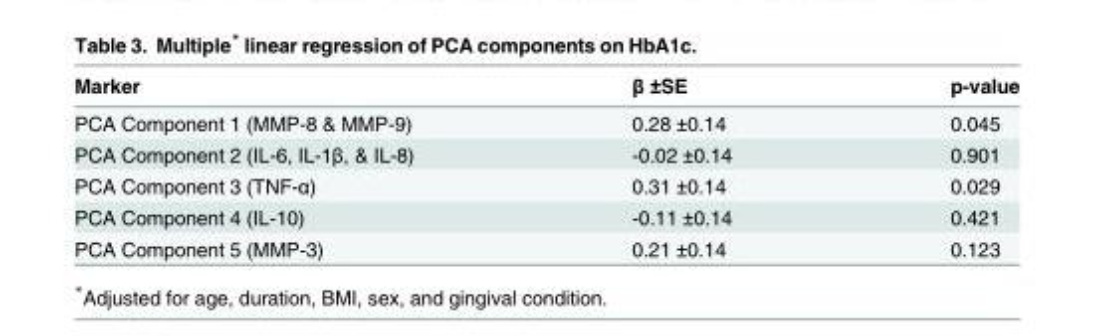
<table><thead><tr><td>Marker</td><td>β ±SE</td><td>p-value</td></tr></thead><tbody><tr><td>PCA Component 1 (MMP-8 &amp; MMP-9)</td><td>0.28 ±0.14</td><td>0.045</td></tr><tr><td>PCA Component 2 (IL-6, IL-1β, &amp; IL-8)</td><td>-0.02 ±0.14</td><td>0.901</td></tr><tr><td>PCA Component 3 (TNF-α)</td><td>0.31 ±0.14</td><td>0.029</td></tr><tr><td>PCA Component 4 (IL-10)</td><td>-0.11 ±0.14</td><td>0.421</td></tr><tr><td>PCA Component 5 (MMP-3)</td><td>0.21 ±0.14</td><td>0.123</td></tr></tbody></table>